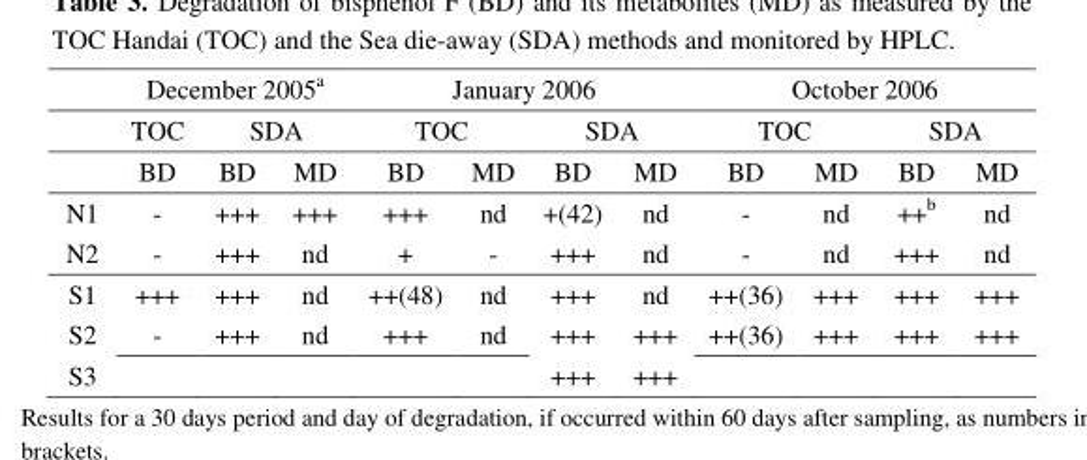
<table><thead><tr><td rowspan="3"></td><td colspan="3">December 2005<sup>a</sup></td><td colspan="4">January 2006</td><td colspan="4">October 2006</td></tr><tr><td rowspan="2">TOC BD</td><td colspan="2">SDA</td><td colspan="2">TOC</td><td colspan="2">SDA</td><td colspan="2">TOC</td><td colspan="2">SDA</td></tr><tr><td>BD</td><td>MD</td><td>BD</td><td>MD</td><td>BD</td><td>MD</td><td>BD</td><td>MD</td><td>BD</td><td>MD</td></tr></thead><tbody><tr><td>N1</td><td>-</td><td>+++</td><td>+++</td><td>+++</td><td>nd</td><td>+(42)</td><td>nd</td><td>-</td><td>nd</td><td>++<sup>b</sup></td><td>nd</td></tr><tr><td>N2</td><td>-</td><td>+++</td><td>nd</td><td>+</td><td>-</td><td>+++</td><td>nd</td><td>-</td><td>nd</td><td>+++</td><td>nd</td></tr><tr><td>S1</td><td>+++</td><td>+++</td><td>nd</td><td>++(48)</td><td>nd</td><td>+++</td><td>nd</td><td>++(36)</td><td>+++</td><td>+++</td><td>+++</td></tr><tr><td>S2</td><td>-</td><td>+++</td><td>nd</td><td>+++</td><td>nd</td><td>+++</td><td>+++</td><td>++(36)</td><td>+++</td><td>+++</td><td>+++</td></tr><tr><td>S3</td><td></td><td></td><td></td><td></td><td></td><td>+++</td><td>+++</td><td></td><td></td><td></td><td></td></tr></tbody></table>